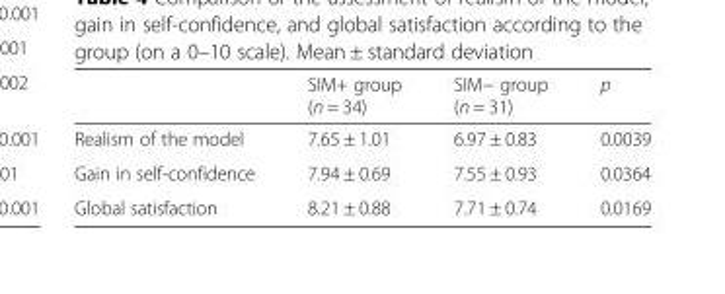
<table><thead><tr><td></td><td>SIM+ group (n = 34)</td><td>SIM− group (n = 31)</td><td>p</td></tr></thead><tbody><tr><td>Realism of the model</td><td>7.65 ± 1.01</td><td>6.97 ± 0.83</td><td>0.0039</td></tr><tr><td>Gain in self-confidence</td><td>7.94 ± 0.69</td><td>7.55 ± 0.93</td><td>0.0364</td></tr><tr><td>Global satisfaction</td><td>8.21 ± 0.88</td><td>7.71 ± 0.74</td><td>0.0169</td></tr></tbody></table>